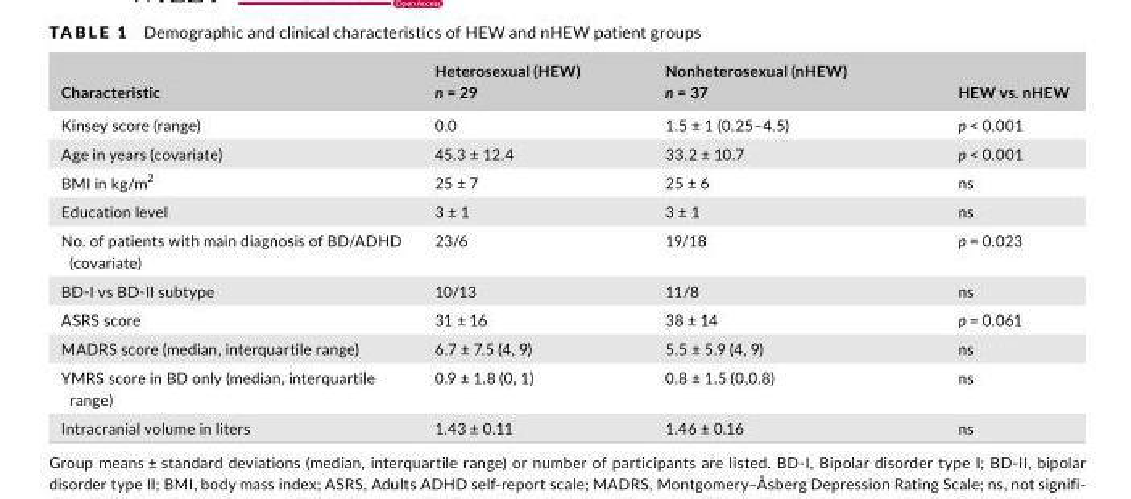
<table><thead><tr><td>Characteristic</td><td>Heterosexual (HEW) n = 29</td><td>Nonheterosexual (nHEW) n = 37</td><td>HEW vs. nHEW</td></tr></thead><tbody><tr><td>Kinsey score (range)</td><td>0.0</td><td>1.5 ± 1 (0.25–4.5)</td><td>p &lt; 0.001</td></tr><tr><td>Age in years (covariate)</td><td>45.3 ± 12.4</td><td>33.2 ± 10.7</td><td>p &lt; 0.001</td></tr><tr><td>BMI in kg/m<sup>2</sup></td><td>25 ± 7</td><td>25 ± 6</td><td>ns</td></tr><tr><td>Education level</td><td>3 ± 1</td><td>3 ± 1</td><td>ns</td></tr><tr><td>No. of patients with main diagnosis of BD/ADHD (covariate)</td><td>23/6</td><td>19/18</td><td>p = 0.023</td></tr><tr><td>BD- I vs BD- II subtype</td><td>10/13</td><td>11/8</td><td>ns</td></tr><tr><td>ASRS score</td><td>31 ± 16</td><td>38 ± 14</td><td>p = 0.061</td></tr><tr><td>MADRS score (median, interquartile range)</td><td>6.7 ± 7.5 (4, 9)</td><td>5.5 ± 5.9 (4, 9)</td><td>ns</td></tr><tr><td>YMRS score in BD only (median, interquartile range)</td><td>0.9 ± 1.8 (0, 1)</td><td>0.8 ± 1.5 (0,0.8)</td><td>ns</td></tr><tr><td>Intracranial volume in liters</td><td>1.43 ± 0.11</td><td>1.46 ± 0.16</td><td>ns</td></tr></tbody></table>